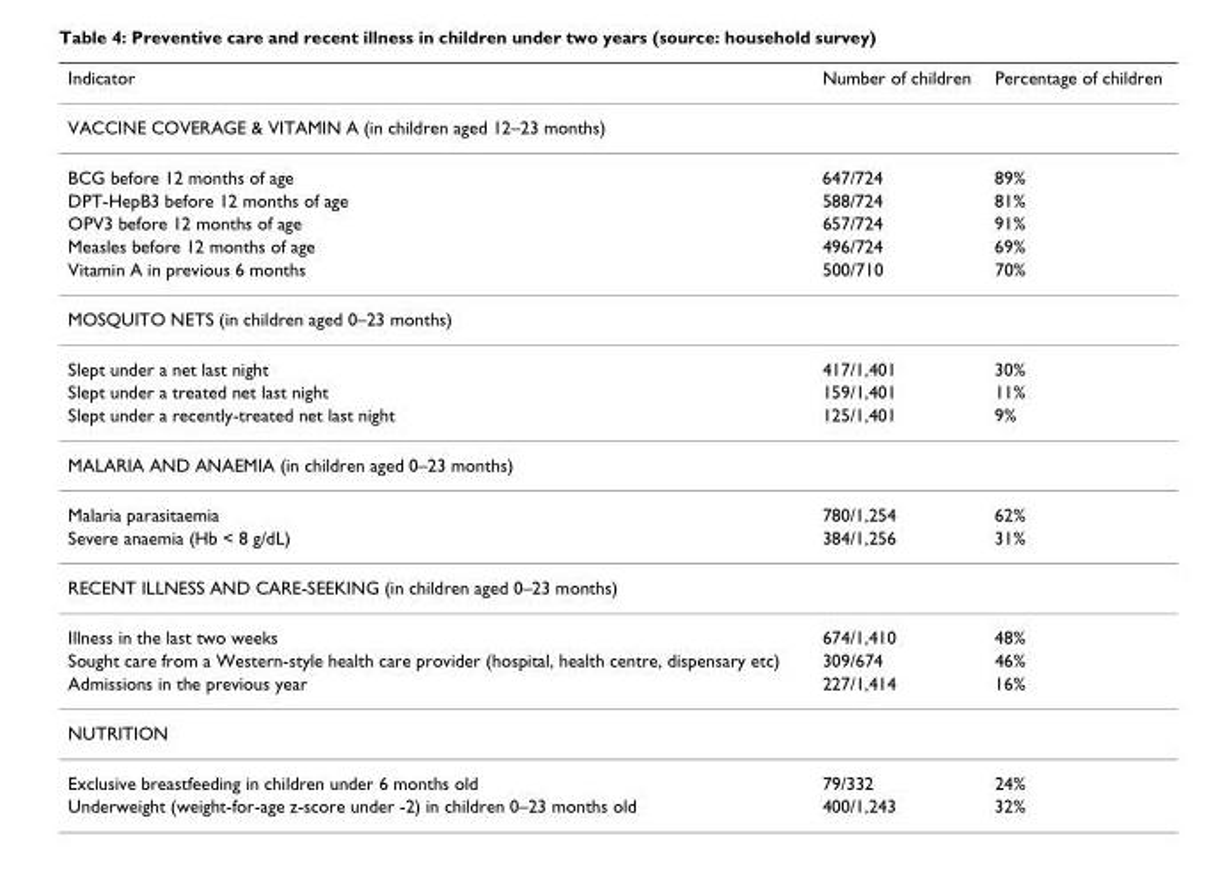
<table><thead><tr><td>Indicator</td><td>Number of children</td><td>Percentage of children</td></tr></thead><tbody><tr><td colspan="3">VACCINE COVERAGE &amp; VITAMIN A (in children aged 12–23 months)</td></tr><tr><td>BCG before 12 months of age</td><td>647/724</td><td>89%</td></tr><tr><td>DPT-HepB3 before 12 months of age</td><td>588/724</td><td>81%</td></tr><tr><td>OPV3 before 12 months of age</td><td>657/724</td><td>91%</td></tr><tr><td>Measles before 12 months of age</td><td>496/724</td><td>69%</td></tr><tr><td>Vitamin A in previous 6 months</td><td>500/710</td><td>70%</td></tr><tr><td colspan="3">MOSQUITO NETS (in children aged 0–23 months)</td></tr><tr><td>Slept under a net last night</td><td>417/1,401</td><td>30%</td></tr><tr><td>Slept under a treated net last night</td><td>159/1,401</td><td>11%</td></tr><tr><td>Slept under a recently-treated net last night</td><td>125/1,401</td><td>9%</td></tr><tr><td colspan="3">MALARIA AND ANAEMIA (in children aged 0–23 months)</td></tr><tr><td>Malaria parasitaemia</td><td>780/1,254</td><td>62%</td></tr><tr><td>Severe anaemia (Hb &lt; 8 g/dL)</td><td>384/1,256</td><td>31%</td></tr><tr><td colspan="3">RECENT ILLNESS AND CARE-SEEKING (in children aged 0–23 months)</td></tr><tr><td>Illness in the last two weeks</td><td>674/1,410</td><td>48%</td></tr><tr><td>Sought care from a Western-style health care provider (hospital, health centre, dispensary etc)</td><td>309/674</td><td>46%</td></tr><tr><td>Admissions in the previous year</td><td>227/1,414</td><td>16%</td></tr><tr><td colspan="3">NUTRITION</td></tr><tr><td>Exclusive breastfeeding in children under 6 months old</td><td>79/332</td><td>24%</td></tr><tr><td>Underweight (weight-for-age z-score under -2) in children 0–23 months old</td><td>400/1,243</td><td>32%</td></tr></tbody></table>